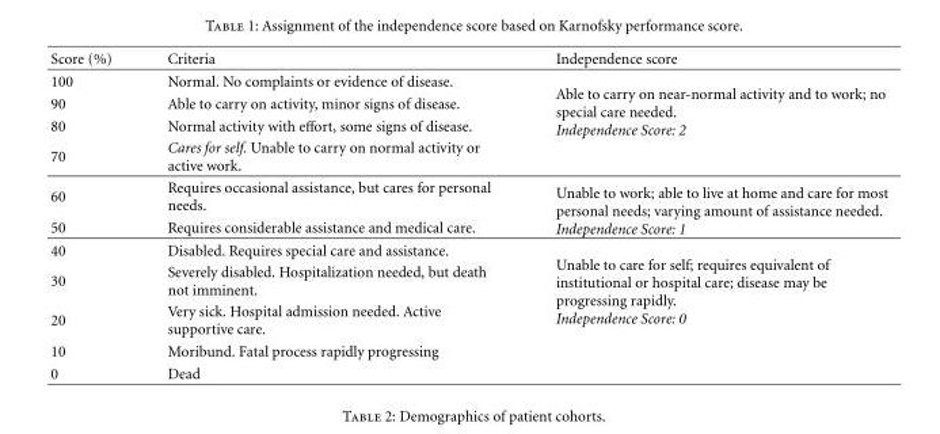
<table><thead><tr><td>Score (%)</td><td>Criteria</td><td>Independence score</td></tr></thead><tbody><tr><td>100</td><td>Normal. No complaints or evidence of disease.</td><td rowspan="4">Able to carry on near-normal activity and to work; no special care needed. Independence Score: 2</td></tr><tr><td>90</td><td>Able to carry on activity, minor signs of disease.</td></tr><tr><td>80</td><td>Normal activity with effort, some signs of disease.</td></tr><tr><td>70</td><td>Cares for self. Unable to carry on normal activity or active work.</td></tr><tr><td>60</td><td>Requires occasional assistance, but cares for personal needs.</td><td rowspan="2">Unable to work; able to live at home and care for most personal needs; varying amount of assistance needed. Independence Score: 1</td></tr><tr><td>50</td><td>Requires considerable assistance and medical care.</td></tr><tr><td>40</td><td>Disabled. Requires special care and assistance.</td><td rowspan="5">Unable to care for self; requires equivalent of institutional or hospital care; disease may be progressing rapidly. Independence Score: 0</td></tr><tr><td>30</td><td>Severely disabled. Hospitalization needed, but death not imminent.</td></tr><tr><td>20</td><td>Very sick. Hospital admission needed. Active supportive care.</td></tr><tr><td>10</td><td>Moribund. Fatal process rapidly progressing</td></tr><tr><td>0</td><td>Dead</td></tr></tbody></table>